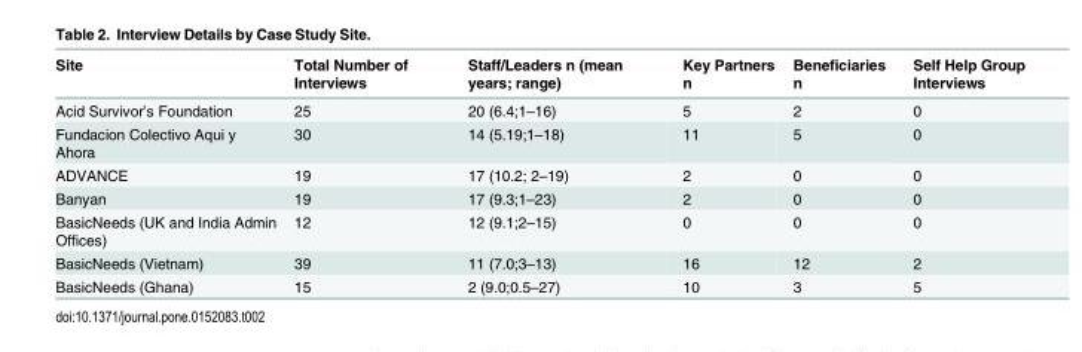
<table><thead><tr><td>Site</td><td>Total Number of Interviews</td><td>Staff/Leaders n (mean years; range)</td><td>Key Partners n</td><td>Beneficiaries n</td><td>Self Help Group Interviews</td></tr></thead><tbody><tr><td>Acid Survivor’s Foundation</td><td>25</td><td>20 (6.4;1–16)</td><td>5</td><td>2</td><td>0</td></tr><tr><td>Fundacion Colectivo Aqui y Ahora</td><td>30</td><td>14 (5.19;1–18)</td><td>11</td><td>5</td><td>0</td></tr><tr><td>ADVANCE</td><td>19</td><td>17 (10.2; 2–19)</td><td>2</td><td>0</td><td>0</td></tr><tr><td>Banyan</td><td>19</td><td>17 (9.3;1–23)</td><td>2</td><td>0</td><td>0</td></tr><tr><td>BasicNeeds (UK and India Admin Offices)</td><td>12</td><td>12 (9.1;2–15)</td><td>0</td><td>0</td><td>0</td></tr><tr><td>BasicNeeds (Vietnam)</td><td>39</td><td>11 (7.0;3–13)</td><td>16</td><td>12</td><td>2</td></tr><tr><td>BasicNeeds (Ghana)</td><td>15</td><td>2 (9.0;0.5–27)</td><td>10</td><td>3</td><td>5</td></tr></tbody></table>